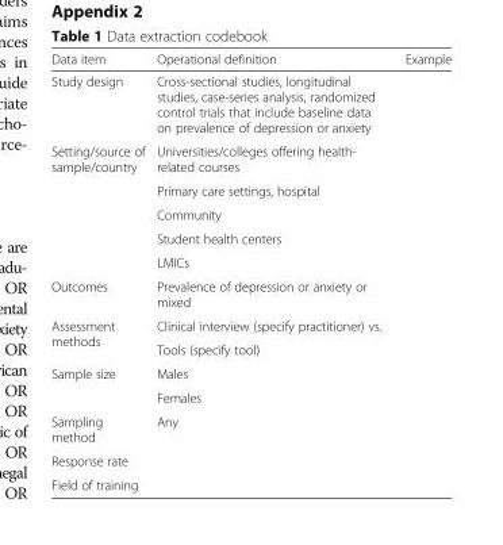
<table><thead><tr><td>Data item</td><td>Operational definition</td><td>Example</td></tr></thead><tbody><tr><td>Study design</td><td>Cross-sectional studies, longitudinal studies, case-series analysis, randomized control trials that include baseline data on prevalence of depression or anxiety</td><td></td></tr><tr><td rowspan="5">Setting/source of sample/country</td><td>Universities/colleges offering health- related courses</td><td rowspan="5"></td></tr><tr><td>Primary care settings, hospital</td></tr><tr><td>Community</td></tr><tr><td>Student health centers</td></tr><tr><td>LMICs</td></tr><tr><td>Outcomes</td><td>Prevalence of depression or anxiety or mixed</td><td></td></tr><tr><td rowspan="2">Assessment methods</td><td>Clinical interview (specify practitioner) vs.</td><td rowspan="2"></td></tr><tr><td>Tools (specify tool)</td></tr><tr><td rowspan="2">Sample size</td><td>Males</td><td rowspan="2"></td></tr><tr><td>Females</td></tr><tr><td>Sampling method</td><td>Any</td><td></td></tr><tr><td colspan="3">Response rate</td></tr><tr><td>Field of training</td><td></td><td></td></tr></tbody></table>